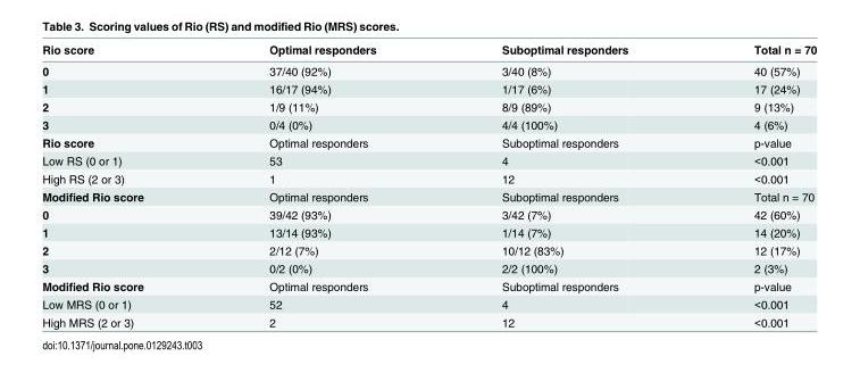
<table><thead><tr><td>Rio score</td><td>Optimal responders</td><td>Suboptimal responders</td><td>Total n = 70</td></tr></thead><tbody><tr><td>0</td><td>37/40 (92%)</td><td>3/40 (8%)</td><td>40 (57%)</td></tr><tr><td>1</td><td>16/17 (94%)</td><td>1/17 (6%)</td><td>17 (24%)</td></tr><tr><td>2</td><td>1/9 (11%)</td><td>8/9 (89%)</td><td>9 (13%)</td></tr><tr><td>3</td><td>0/4 (0%)</td><td>4/4 (100%)</td><td>4 (6%)</td></tr><tr><td>Rio score</td><td>Optimal responders</td><td>Suboptimal responders</td><td>p-value</td></tr><tr><td>Low RS (0 or 1)</td><td>53</td><td>4</td><td>&lt;0.001</td></tr><tr><td>High RS (2 or 3)</td><td>1</td><td>12</td><td>&lt;0.001</td></tr><tr><td>Modified Rio score</td><td>Optimal responders</td><td>Suboptimal responders</td><td>Total n = 70</td></tr><tr><td>0</td><td>39/42 (93%)</td><td>3/42 (7%)</td><td>42 (60%)</td></tr><tr><td>1</td><td>13/14 (93%)</td><td>1/14 (7%)</td><td>14 (20%)</td></tr><tr><td>2</td><td>2/12 (7%)</td><td>10/12 (83%)</td><td>12 (17%)</td></tr><tr><td>3</td><td>0/2 (0%)</td><td>2/2 (100%)</td><td>2 (3%)</td></tr><tr><td>Modified Rio score</td><td>Optimal responders</td><td>Suboptimal responders</td><td>p-value</td></tr><tr><td>Low MRS (0 or 1)</td><td>52</td><td>4</td><td>&lt;0.001</td></tr><tr><td>High MRS (2 or 3)</td><td>2</td><td>12</td><td>&lt;0.001</td></tr></tbody></table>